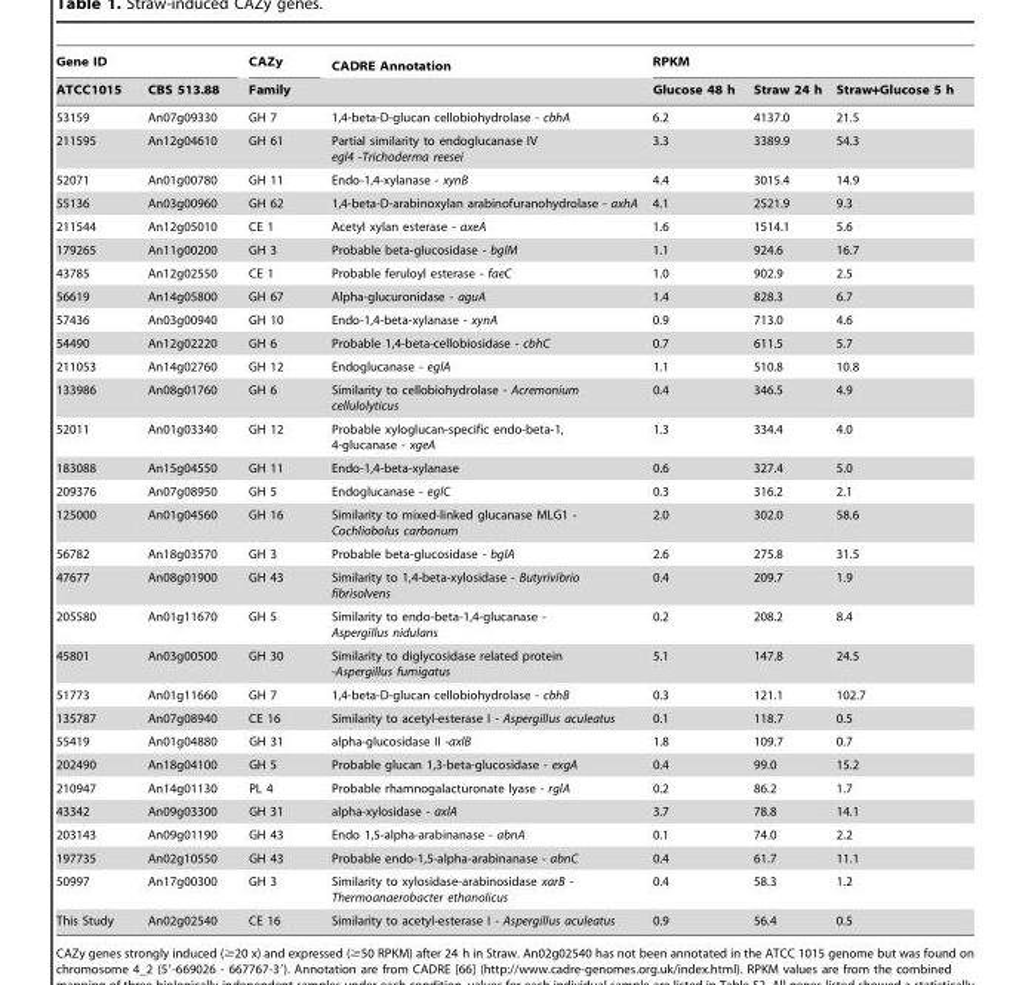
<table><thead><tr><td colspan="2">Gene ID</td><td rowspan="2">CAZy Family</td><td rowspan="2">CADRE Annotation</td><td colspan="3">RPKM</td></tr><tr><td>ATCC1015</td><td>CBS 513.88</td><td>Glucose 48 h</td><td>Straw 24 h</td><td>Straw+Glucose 5 h</td></tr></thead><tbody><tr><td>53159</td><td>An07g09330</td><td>GH 7</td><td>1,4-beta-D-glucan cellobiohydrolase - cbhA</td><td>6.2</td><td>4137.0</td><td>21.5</td></tr><tr><td>211595</td><td>An12g04610</td><td>GH 61</td><td>Partial similarity to endoglucanase IV egl4 -Trichoderma reesei</td><td>3.3</td><td>3389.9</td><td>54.3</td></tr><tr><td>52071</td><td>An01g00780</td><td>GH 11</td><td>Endo-1,4-xylanase - xynB</td><td>4.4</td><td>3015.4</td><td>14.9</td></tr><tr><td>55136</td><td>An03g00960</td><td>GH 62</td><td>1,4-beta-D-arabinoxylan arabinofuranohydrolase - axhA</td><td>4.1</td><td>2521.9</td><td>9.3</td></tr><tr><td>211544</td><td>An12g05010</td><td>CE 1</td><td>Acetyl xylan esterase - axeA</td><td>1.6</td><td>1514.1</td><td>5.6</td></tr><tr><td>179265</td><td>An11g00200</td><td>GH 3</td><td>Probable beta-glucosidase - bglM</td><td>1.1</td><td>924.6</td><td>16.7</td></tr><tr><td>43785</td><td>An12g02550</td><td>CE 1</td><td>Probable feruloyl esterase - faeC</td><td>1.0</td><td>902.9</td><td>2.5</td></tr><tr><td>56619</td><td>An14g05800</td><td>GH 67</td><td>Alpha-glucuronidase - aguA</td><td>1.4</td><td>828.3</td><td>6.7</td></tr><tr><td>57436</td><td>An03g00940</td><td>GH 10</td><td>Endo-1,4-beta-xylanase - xynA</td><td>0.9</td><td>713.0</td><td>4.6</td></tr><tr><td>54490</td><td>An12g02220</td><td>GH 6</td><td>Probable 1,4-beta-cellobiosidase - cbhC</td><td>0.7</td><td>611.5</td><td>5.7</td></tr><tr><td>211053</td><td>An14g02760</td><td>GH 12</td><td>Endoglucanase - eglA</td><td>1.1</td><td>510.8</td><td>10.8</td></tr><tr><td>133986</td><td>An08g01760</td><td>GH 6</td><td>Similarity to cellobiohydrolase - Acremonium cellulolyticus</td><td>0.4</td><td>346.5</td><td>4.9</td></tr><tr><td>52011</td><td>An01g03340</td><td>GH 12</td><td>Probable xyloglucan-specific endo-beta-1, 4-glucanase - xgeA</td><td>1.3</td><td>334.4</td><td>4.0</td></tr><tr><td>183088</td><td>An15g04550</td><td>GH 11</td><td>Endo-1,4-beta-xylanase</td><td>0.6</td><td>327.4</td><td>5.0</td></tr><tr><td>209376</td><td>An07g08950</td><td>GH 5</td><td>Endoglucanase - eglC</td><td>0.3</td><td>316.2</td><td>2.1</td></tr><tr><td>125000</td><td>An01g04560</td><td>GH 16</td><td>Similarity to mixed-linked glucanase MLG1 - Cochliobolus carbonum</td><td>2.0</td><td>302.0</td><td>58.6</td></tr><tr><td>56782</td><td>An18g03570</td><td>GH 3</td><td>Probable beta-glucosidase - bglA</td><td>2.6</td><td>275.8</td><td>31.5</td></tr><tr><td>47677</td><td>An08g01900</td><td>GH 43</td><td>Similarity to 1,4-beta-xylosidase - Butyrivibrio fibrisolvens</td><td>0.4</td><td>209.7</td><td>1.9</td></tr><tr><td>205580</td><td>An01g11670</td><td>GH 5</td><td>Similarity to endo-beta-1,4-glucanase - Aspergillus nidulans</td><td>0.2</td><td>208.2</td><td>8.4</td></tr><tr><td>45801</td><td>An03g00500</td><td>GH 30</td><td>Similarity to diglycosidase related protein -Aspergillus fumigatus</td><td>5.1</td><td>147.8</td><td>24.5</td></tr><tr><td>51773</td><td>An01g11660</td><td>GH 7</td><td>1,4-beta-D-glucan cellobiohydrolase - cbhB</td><td>0.3</td><td>121.1</td><td>102.7</td></tr><tr><td>135787</td><td>An07g08940</td><td>CE 16</td><td>Similarity to acetyl-esterase I - Aspergillus aculeatus</td><td>0.1</td><td>118.7</td><td>0.5</td></tr><tr><td>55419</td><td>An01g04880</td><td>GH 31</td><td>alpha-glucosidase II -axlB</td><td>1.8</td><td>109.7</td><td>0.7</td></tr><tr><td>202490</td><td>An18g04100</td><td>GH 5</td><td>Probable glucan 1,3-beta-glucosidase - exgA</td><td>0.4</td><td>99.0</td><td>15.2</td></tr><tr><td>210947</td><td>An14g01130</td><td>PL 4</td><td>Probable rhamnogalacturonate lyase - rglA</td><td>0.2</td><td>86.2</td><td>1.7</td></tr><tr><td>43342</td><td>An09g03300</td><td>GH 31</td><td>alpha-xylosidase - axlA</td><td>3.7</td><td>78.8</td><td>14.1</td></tr><tr><td>203143</td><td>An09g01190</td><td>GH 43</td><td>Endo 1,5-alpha-arabinanase - abnA</td><td>0.1</td><td>74.0</td><td>2.2</td></tr><tr><td>197735</td><td>An02g10550</td><td>GH 43</td><td>Probable endo-1,5-alpha-arabinanase - abnC</td><td>0.4</td><td>61.7</td><td>11.1</td></tr><tr><td>50997</td><td>An17g00300</td><td>GH 3</td><td>Similarity to xylosidase-arabinosidase xarB - Thermoanaerobacter ethanolicus</td><td>0.4</td><td>58.3</td><td>1.2</td></tr><tr><td>This Study</td><td>An02g02540</td><td>CE 16</td><td>Similarity to acetyl-esterase I - Aspergillus aculeatus</td><td>0.9</td><td>56.4</td><td>0.5</td></tr></tbody></table>